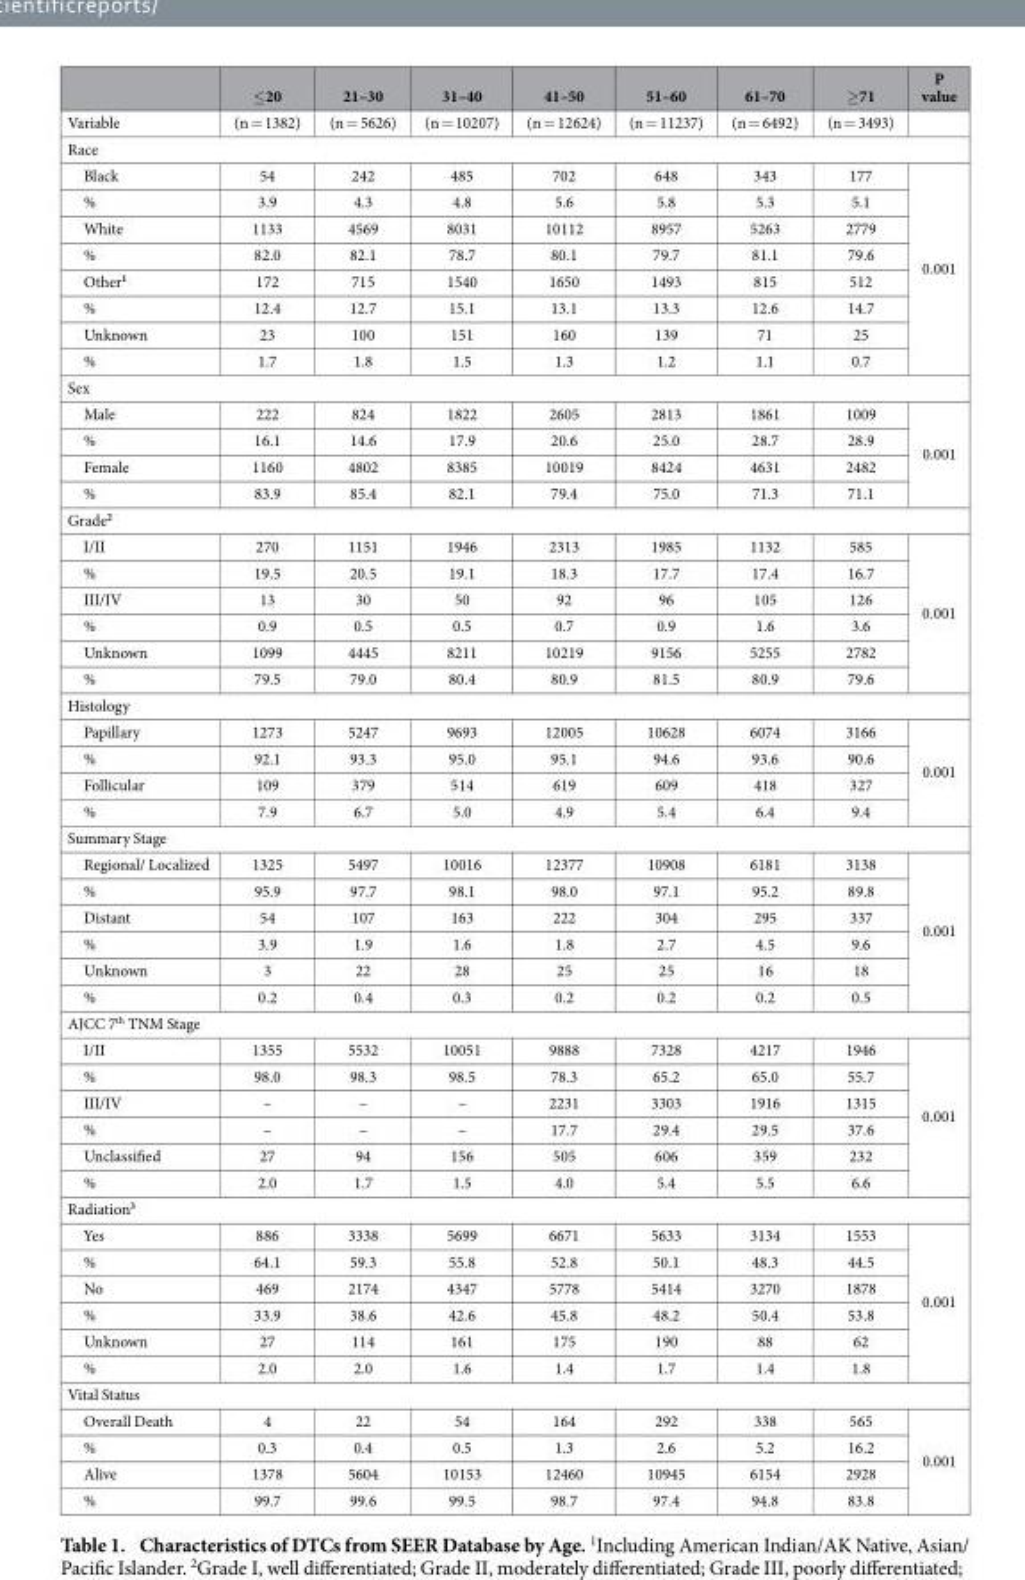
<table><thead><tr><td></td><td>≤ 20</td><td>21–30</td><td>31–40</td><td>41–50</td><td>51–60</td><td>61–70</td><td>≥ 71</td><td>P value</td></tr></thead><tbody><tr><td>Variable</td><td>(n = 1382)</td><td>(n = 5626)</td><td>(n = 10207)</td><td>(n = 12624)</td><td>(n = 11237)</td><td>(n = 6492)</td><td>(n = 3493)</td><td></td></tr><tr><td colspan="9">Race</td></tr><tr><td>Black</td><td>54</td><td>242</td><td>485</td><td>702</td><td>648</td><td>343</td><td>177</td><td rowspan="8">0.001</td></tr><tr><td>%</td><td>3.9</td><td>4.3</td><td>4.8</td><td>5.6</td><td>5.8</td><td>5.3</td><td>5.1</td></tr><tr><td>White</td><td>1133</td><td>4569</td><td>8031</td><td>10112</td><td>8957</td><td>5263</td><td>2779</td></tr><tr><td>%</td><td>82.0</td><td>82.1</td><td>78.7</td><td>80.1</td><td>79.7</td><td>81.1</td><td>79.6</td></tr><tr><td>Other<sup>1</sup></td><td>172</td><td>715</td><td>1540</td><td>1650</td><td>1493</td><td>815</td><td>512</td></tr><tr><td>%</td><td>12.4</td><td>12.7</td><td>15.1</td><td>13.1</td><td>13.3</td><td>12.6</td><td>14.7</td></tr><tr><td>Unknown</td><td>23</td><td>100</td><td>151</td><td>160</td><td>139</td><td>71</td><td>25</td></tr><tr><td>%</td><td>1.7</td><td>1.8</td><td>1.5</td><td>1.3</td><td>1.2</td><td>1.1</td><td>0.7</td></tr><tr><td colspan="9">Sex</td></tr><tr><td>Male</td><td>222</td><td>824</td><td>1822</td><td>2605</td><td>2813</td><td>1861</td><td>1009</td><td rowspan="4">0.001</td></tr><tr><td>%</td><td>16.1</td><td>14.6</td><td>17.9</td><td>20.6</td><td>25.0</td><td>28.7</td><td>28.9</td></tr><tr><td>Female</td><td>1160</td><td>4802</td><td>8385</td><td>10019</td><td>8424</td><td>4631</td><td>2482</td></tr><tr><td>%</td><td>83.9</td><td>85.4</td><td>82.1</td><td>79.4</td><td>75.0</td><td>71.3</td><td>71.1</td></tr><tr><td colspan="9">Grade<sup>2</sup></td></tr><tr><td>I/II</td><td>270</td><td>1151</td><td>1946</td><td>2313</td><td>1985</td><td>1132</td><td>585</td><td rowspan="6">0.001</td></tr><tr><td>%</td><td>19.5</td><td>20.5</td><td>19.1</td><td>18.3</td><td>17.7</td><td>17.4</td><td>16.7</td></tr><tr><td>III/IV</td><td>13</td><td>30</td><td>50</td><td>92</td><td>96</td><td>105</td><td>126</td></tr><tr><td>%</td><td>0.9</td><td>0.5</td><td>0.5</td><td>0.7</td><td>0.9</td><td>1.6</td><td>3.6</td></tr><tr><td>Unknown</td><td>1099</td><td>4445</td><td>8211</td><td>10219</td><td>9156</td><td>5255</td><td>2782</td></tr><tr><td>%</td><td>79.5</td><td>79.0</td><td>80.4</td><td>80.9</td><td>81.5</td><td>80.9</td><td>79.6</td></tr><tr><td colspan="9">Histology</td></tr><tr><td>Papillary</td><td>1273</td><td>5247</td><td>9693</td><td>12005</td><td>10628</td><td>6074</td><td>3166</td><td rowspan="4">0.001</td></tr><tr><td>%</td><td>92.1</td><td>93.3</td><td>95.0</td><td>95.1</td><td>94.6</td><td>93.6</td><td>90.6</td></tr><tr><td>Follicular</td><td>109</td><td>379</td><td>514</td><td>619</td><td>609</td><td>418</td><td>327</td></tr><tr><td>%</td><td>7.9</td><td>6.7</td><td>5.0</td><td>4.9</td><td>5.4</td><td>6.4</td><td>9.4</td></tr><tr><td colspan="9">Summary Stage</td></tr><tr><td>Regional/ Localized</td><td>1325</td><td>5497</td><td>10016</td><td>12377</td><td>10908</td><td>6181</td><td>3138</td><td rowspan="6">0.001</td></tr><tr><td>%</td><td>95.9</td><td>97.7</td><td>98.1</td><td>98.0</td><td>97.1</td><td>95.2</td><td>89.8</td></tr><tr><td>Distant</td><td>54</td><td>107</td><td>163</td><td>222</td><td>304</td><td>295</td><td>337</td></tr><tr><td>%</td><td>3.9</td><td>1.9</td><td>1.6</td><td>1.8</td><td>2.7</td><td>4.5</td><td>9.6</td></tr><tr><td>Unknown</td><td>3</td><td>22</td><td>28</td><td>25</td><td>25</td><td>16</td><td>18</td></tr><tr><td>%</td><td>0.2</td><td>0.4</td><td>0.3</td><td>0.2</td><td>0.2</td><td>0.2</td><td>0.5</td></tr><tr><td colspan="9">AJCC 7<sup>th</sup> TNM Stage</td></tr><tr><td>I/II</td><td>1355</td><td>5532</td><td>10051</td><td>9888</td><td>7328</td><td>4217</td><td>1946</td><td rowspan="6">0.001</td></tr><tr><td>%</td><td>98.0</td><td>98.3</td><td>98.5</td><td>78.3</td><td>65.2</td><td>65.0</td><td>55.7</td></tr><tr><td>III/IV</td><td>–</td><td>–</td><td>–</td><td>2231</td><td>3303</td><td>1916</td><td>1315</td></tr><tr><td>%</td><td>–</td><td>–</td><td>–</td><td>17.7</td><td>29.4</td><td>29.5</td><td>37.6</td></tr><tr><td>Unclassified</td><td>27</td><td>94</td><td>156</td><td>505</td><td>606</td><td>359</td><td>232</td></tr><tr><td>%</td><td>2.0</td><td>1.7</td><td>1.5</td><td>4.0</td><td>5.4</td><td>5.5</td><td>6.6</td></tr><tr><td colspan="9">Radiation<sup>3</sup></td></tr><tr><td>Yes</td><td>886</td><td>3338</td><td>5699</td><td>6671</td><td>5633</td><td>3134</td><td>1553</td><td rowspan="6">0.001</td></tr><tr><td>%</td><td>64.1</td><td>59.3</td><td>55.8</td><td>52.8</td><td>50.1</td><td>48.3</td><td>44.5</td></tr><tr><td>No</td><td>469</td><td>2174</td><td>4347</td><td>5778</td><td>5414</td><td>3270</td><td>1878</td></tr><tr><td>%</td><td>33.9</td><td>38.6</td><td>42.6</td><td>45.8</td><td>48.2</td><td>50.4</td><td>53.8</td></tr><tr><td>Unknown</td><td>27</td><td>114</td><td>161</td><td>175</td><td>190</td><td>88</td><td>62</td></tr><tr><td>%</td><td>2.0</td><td>2.0</td><td>1.6</td><td>1.4</td><td>1.7</td><td>1.4</td><td>1.8</td></tr><tr><td colspan="9">Vital Status</td></tr><tr><td>Overall Death</td><td>4</td><td>22</td><td>54</td><td>164</td><td>292</td><td>338</td><td>565</td><td rowspan="4">0.001</td></tr><tr><td>%</td><td>0.3</td><td>0.4</td><td>0.5</td><td>1.3</td><td>2.6</td><td>5.2</td><td>16.2</td></tr><tr><td>Alive</td><td>1378</td><td>5604</td><td>10153</td><td>12460</td><td>10945</td><td>6154</td><td>2928</td></tr><tr><td>%</td><td>99.7</td><td>99.6</td><td>99.5</td><td>98.7</td><td>97.4</td><td>94.8</td><td>83.8</td></tr></tbody></table>